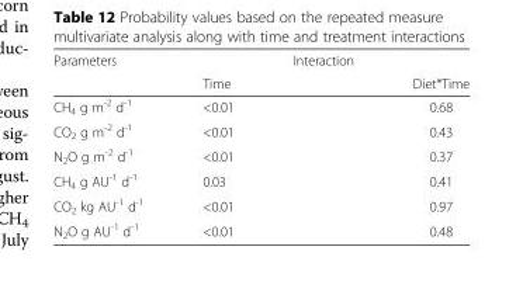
<table><thead><tr><td rowspan="2">Parameters</td><td rowspan="2">Time</td><td rowspan="2">Interaction</td><td rowspan="2">Diet*Time</td></tr><tr></tr></thead><tbody><tr><td>CH<sub>4</sub> g m<sup>-2</sup> d<sup>-1</sup></td><td>&lt;0.01</td><td></td><td>0.68</td></tr><tr><td>CO<sub>2</sub> g m<sup>-2</sup> d<sup>-1</sup></td><td>&lt;0.01</td><td></td><td>0.43</td></tr><tr><td>N<sub>2</sub>O g m<sup>-2</sup> d<sup>-1</sup></td><td>&lt;0.01</td><td></td><td>0.37</td></tr><tr><td>CH<sub>4</sub> g AU<sup>-1</sup> d<sup>-1</sup></td><td>0.03</td><td></td><td>0.41</td></tr><tr><td>CO<sub>2</sub> kg AU<sup>-1</sup> d<sup>-1</sup></td><td>&lt;0.01</td><td></td><td>0.97</td></tr><tr><td>N<sub>2</sub>O g AU<sup>-1</sup> d<sup>-1</sup></td><td>&lt;0.01</td><td></td><td>0.48</td></tr></tbody></table>